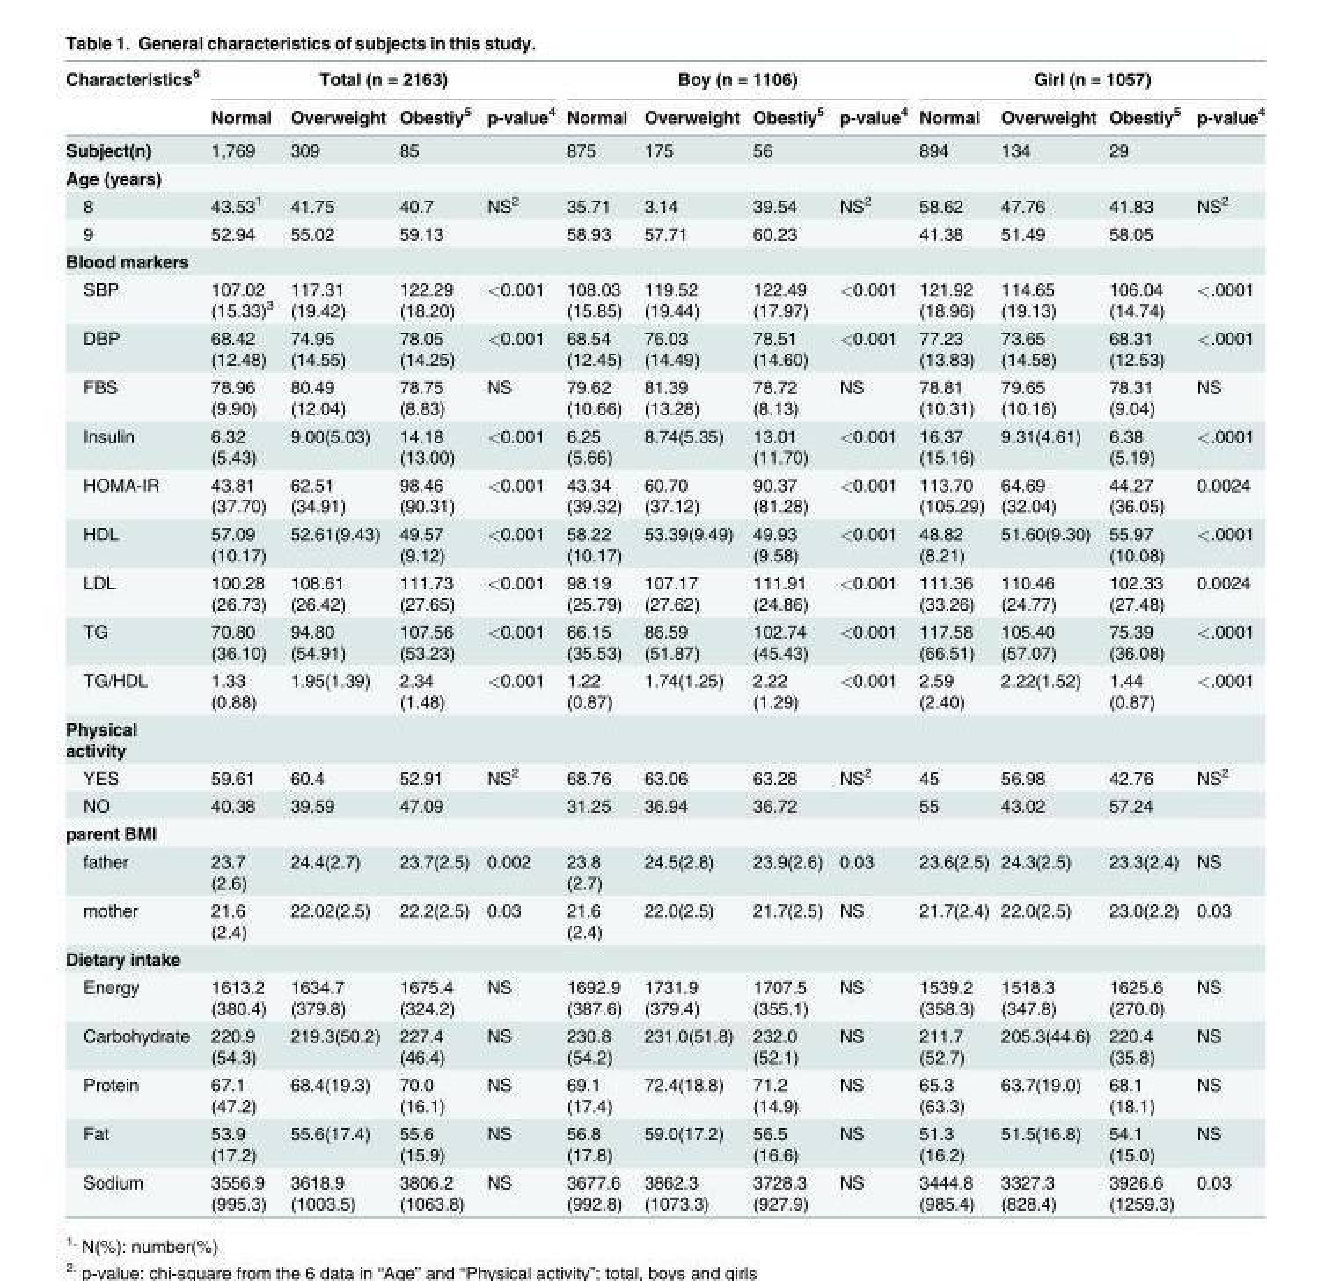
<table><thead><tr><td rowspan="2">Characteristics<sup>6</sup></td><td colspan="4">Total (n = 2163)</td><td colspan="4">Boy (n = 1106)</td><td colspan="4">Girl (n = 1057)</td></tr><tr><td>Normal</td><td>Overweight</td><td>Obestiy<sup>5</sup></td><td>p-value<sup>4</sup></td><td>Normal</td><td>Overweight</td><td>Obestiy<sup>5</sup></td><td>p-value<sup>4</sup></td><td>Normal</td><td>Overweight</td><td>Obestiy<sup>5</sup></td><td>p-value<sup>4</sup></td></tr></thead><tbody><tr><td>Subject(n)</td><td>1,769</td><td>309</td><td>85</td><td></td><td>875</td><td>175</td><td>56</td><td></td><td>894</td><td>134</td><td>29</td><td></td></tr><tr><td colspan="13">Age (years)</td></tr><tr><td>8</td><td>43.53<sup>1</sup></td><td>41.75</td><td>40.7</td><td>NS<sup>2</sup></td><td>35.71</td><td>3.14</td><td>39.54</td><td>NS<sup>2</sup></td><td>58.62</td><td>47.76</td><td>41.83</td><td>NS<sup>2</sup></td></tr><tr><td>9</td><td>52.94</td><td>55.02</td><td>59.13</td><td></td><td>58.93</td><td>57.71</td><td>60.23</td><td></td><td>41.38</td><td>51.49</td><td>58.05</td><td></td></tr><tr><td colspan="13">Blood markers</td></tr><tr><td>SBP</td><td>107.02 (15.33)<sup>3</sup></td><td>117.31 (19.42)</td><td>122.29 (18.20)</td><td>&lt;0.001</td><td>108.03 (15.85)</td><td>119.52 (19.44)</td><td>122.49 (17.97)</td><td>&lt;0.001</td><td>121.92 (18.96)</td><td>114.65 (19.13)</td><td>106.04 (14.74)</td><td>&lt;.0001</td></tr><tr><td>DBP</td><td>68.42 (12.48)</td><td>74.95 (14.55)</td><td>78.05 (14.25)</td><td>&lt;0.001</td><td>68.54 (12.45)</td><td>76.03 (14.49)</td><td>78.51 (14.60)</td><td>&lt;0.001</td><td>77.23 (13.83)</td><td>73.65 (14.58)</td><td>68.31 (12.53)</td><td>&lt;.0001</td></tr><tr><td>FBS</td><td>78.96 (9.90)</td><td>80.49 (12.04)</td><td>78.75 (8.83)</td><td>NS</td><td>79.62 (10.66)</td><td>81.39 (13.28)</td><td>78.72 (8.13)</td><td>NS</td><td>78.81 (10.31)</td><td>79.65 (10.16)</td><td>78.31 (9.04)</td><td>NS</td></tr><tr><td>Insulin</td><td>6.32 (5.43)</td><td>9.00(5.03)</td><td>14.18 (13.00)</td><td>&lt;0.001</td><td>6.25 (5.66)</td><td>8.74(5.35)</td><td>13.01 (11.70)</td><td>&lt;0.001</td><td>16.37 (15.16)</td><td>9.31(4.61)</td><td>6.38 (5.19)</td><td>&lt;.0001</td></tr><tr><td>HOMA-IR</td><td>43.81 (37.70)</td><td>62.51 (34.91)</td><td>98.46 (90.31)</td><td>&lt;0.001</td><td>43.34 (39.32)</td><td>60.70 (37.12)</td><td>90.37 (81.28)</td><td>&lt;0.001</td><td>113.70 (105.29)</td><td>64.69 (32.04)</td><td>44.27 (36.05)</td><td>0.0024</td></tr><tr><td>HDL</td><td>57.09 (10.17)</td><td>52.61(9.43)</td><td>49.57 (9.12)</td><td>&lt;0.001</td><td>58.22 (10.17)</td><td>53.39(9.49)</td><td>49.93 (9.58)</td><td>&lt;0.001</td><td>48.82 (8.21)</td><td>51.60(9.30)</td><td>55.97 (10.08)</td><td>&lt;.0001</td></tr><tr><td>LDL</td><td>100.28 (26.73)</td><td>108.61 (26.42)</td><td>111.73 (27.65)</td><td>&lt;0.001</td><td>98.19 (25.79)</td><td>107.17 (27.62)</td><td>111.91 (24.86)</td><td>&lt;0.001</td><td>111.36 (33.26)</td><td>110.46 (24.77)</td><td>102.33 (27.48)</td><td>0.0024</td></tr><tr><td>TG</td><td>70.80 (36.10)</td><td>94.80 (54.91)</td><td>107.56 (53.23)</td><td>&lt;0.001</td><td>66.15 (35.53)</td><td>86.59 (51.87)</td><td>102.74 (45.43)</td><td>&lt;0.001</td><td>117.58 (66.51)</td><td>105.40 (57.07)</td><td>75.39 (36.08)</td><td>&lt;.0001</td></tr><tr><td>TG/HDL</td><td>1.33 (0.88)</td><td>1.95(1.39)</td><td>2.34 (1.48)</td><td>&lt;0.001</td><td>1.22 (0.87)</td><td>1.74(1.25)</td><td>2.22 (1.29)</td><td>&lt;0.001</td><td>2.59 (2.40)</td><td>2.22(1.52)</td><td>1.44 (0.87)</td><td>&lt;.0001</td></tr><tr><td colspan="13">Physical activity</td></tr><tr><td>YES</td><td>59.61</td><td>60.4</td><td>52.91</td><td>NS<sup>2</sup></td><td>68.76</td><td>63.06</td><td>63.28</td><td>NS<sup>2</sup></td><td>45</td><td>56.98</td><td>42.76</td><td>NS<sup>2</sup></td></tr><tr><td>NO</td><td>40.38</td><td>39.59</td><td>47.09</td><td></td><td>31.25</td><td>36.94</td><td>36.72</td><td></td><td>55</td><td>43.02</td><td>57.24</td><td></td></tr><tr><td colspan="13">parent BMI</td></tr><tr><td>father</td><td>23.7 (2.6)</td><td>24.4(2.7)</td><td>23.7(2.5)</td><td>0.002</td><td>23.8 (2.7)</td><td>24.5(2.8)</td><td>23.9(2.6)</td><td>0.03</td><td>23.6(2.5)</td><td>24.3(2.5)</td><td>23.3(2.4)</td><td>NS</td></tr><tr><td>mother</td><td>21.6 (2.4)</td><td>22.02(2.5)</td><td>22.2(2.5)</td><td>0.03</td><td>21.6 (2.4)</td><td>22.0(2.5)</td><td>21.7(2.5)</td><td>NS</td><td>21.7(2.4)</td><td>22.0(2.5)</td><td>23.0(2.2)</td><td>0.03</td></tr><tr><td colspan="13">Dietary intake</td></tr><tr><td>Energy</td><td>1613.2 (380.4)</td><td>1634.7 (379.8)</td><td>1675.4 (324.2)</td><td>NS</td><td>1692.9 (387.6)</td><td>1731.9 (379.4)</td><td>1707.5 (355.1)</td><td>NS</td><td>1539.2 (358.3)</td><td>1518.3 (347.8)</td><td>1625.6 (270.0)</td><td>NS</td></tr><tr><td>Carbohydrate</td><td>220.9 (54.3)</td><td>219.3(50.2)</td><td>227.4 (46.4)</td><td>NS</td><td>230.8 (54.2)</td><td>231.0(51.8)</td><td>232.0 (52.1)</td><td>NS</td><td>211.7 (52.7)</td><td>205.3(44.6)</td><td>220.4 (35.8)</td><td>NS</td></tr><tr><td>Protein</td><td>67.1 (47.2)</td><td>68.4(19.3)</td><td>70.0 (16.1)</td><td>NS</td><td>69.1 (17.4)</td><td>72.4(18.8)</td><td>71.2 (14.9)</td><td>NS</td><td>65.3 (63.3)</td><td>63.7(19.0)</td><td>68.1 (18.1)</td><td>NS</td></tr><tr><td>Fat</td><td>53.9 (17.2)</td><td>55.6(17.4)</td><td>55.6 (15.9)</td><td>NS</td><td>56.8 (17.8)</td><td>59.0(17.2)</td><td>56.5 (16.6)</td><td>NS</td><td>51.3 (16.2)</td><td>51.5(16.8)</td><td>54.1 (15.0)</td><td>NS</td></tr><tr><td>Sodium</td><td>3556.9 (995.3)</td><td>3618.9 (1003.5)</td><td>3806.2 (1063.8)</td><td>NS</td><td>3677.6 (992.8)</td><td>3862.3 (1073.3)</td><td>3728.3 (927.9)</td><td>NS</td><td>3444.8 (985.4)</td><td>3327.3 (828.4)</td><td>3926.6 (1259.3)</td><td>0.03</td></tr></tbody></table>